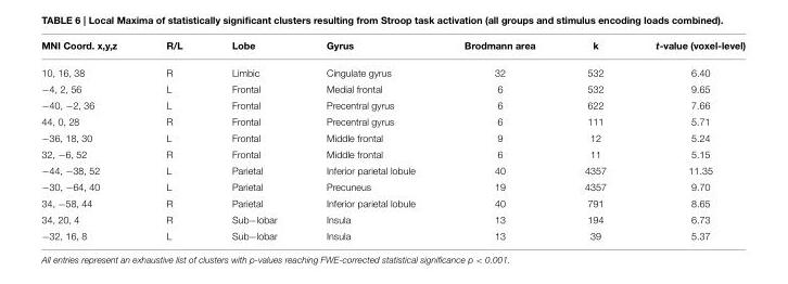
<table><thead><tr><td>MNI Coord. x,y,z</td><td>R/L</td><td>Lobe</td><td>Gyrus</td><td>Brodmann area</td><td>k</td><td>t-value (voxel-level)</td></tr></thead><tbody><tr><td>10, 16, 38</td><td>R</td><td>Limbic</td><td>Cingulate gyrus</td><td>32</td><td>532</td><td>6.40</td></tr><tr><td>−4, 2, 56</td><td>L</td><td>Frontal</td><td>Medial frontal</td><td>6</td><td>532</td><td>9.65</td></tr><tr><td>−40, −2, 36</td><td>L</td><td>Frontal</td><td>Precentral gyrus</td><td>6</td><td>622</td><td>7.66</td></tr><tr><td>44, 0, 28</td><td>R</td><td>Frontal</td><td>Precentral gyrus</td><td>6</td><td>111</td><td>5.71</td></tr><tr><td>−36, 18, 30</td><td>L</td><td>Frontal</td><td>Middle frontal</td><td>9</td><td>12</td><td>5.24</td></tr><tr><td>32, −6, 52</td><td>R</td><td>Frontal</td><td>Middle frontal</td><td>6</td><td>11</td><td>5.15</td></tr><tr><td>−44, −38, 52</td><td>L</td><td>Parietal</td><td>Inferior parietal lobule</td><td>40</td><td>4357</td><td>11.35</td></tr><tr><td>−30, −64, 40</td><td>L</td><td>Parietal</td><td>Precuneus</td><td>19</td><td>4357</td><td>9.70</td></tr><tr><td>34, −58, 44</td><td>R</td><td>Parietal</td><td>Inferior parietal lobule</td><td>40</td><td>791</td><td>8.65</td></tr><tr><td>34, 20, 4</td><td>R</td><td>Sub−lobar</td><td>Insula</td><td>13</td><td>194</td><td>6.73</td></tr><tr><td>−32, 16, 8</td><td>L</td><td>Sub−lobar</td><td>Insula</td><td>13</td><td>39</td><td>5.37</td></tr></tbody></table>